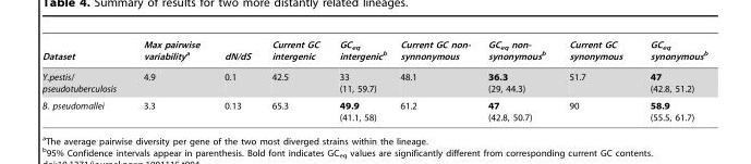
<table><thead><tr><td>Dataset</td><td>Max pairwise variabilitya</td><td>dN/dS</td><td>Current GC intergenic</td><td>GC<sub>eq</sub> intergenicb</td><td>Current GC non- synnonymous</td><td>GC<sub>eq</sub> non- synonymousb</td><td>Current GC synonymous</td><td>GC<sub>eq</sub> synonymousb</td></tr></thead><tbody><tr><td>Y.pestis/ pseudotuberculosis</td><td>4.9</td><td>0.1</td><td>42.5</td><td>33 (11, 59.7)</td><td>48.1</td><td>36.3 (29, 44.3)</td><td>51.7</td><td>47 (42.8, 51.2)</td></tr><tr><td>B. pseudomallei</td><td>3.3</td><td>0.13</td><td>65.3</td><td>49.9 (41.1, 58)</td><td>61.2</td><td>47 (42.8, 50.7)</td><td>90</td><td>58.9 (55.5, 61.7)</td></tr></tbody></table>